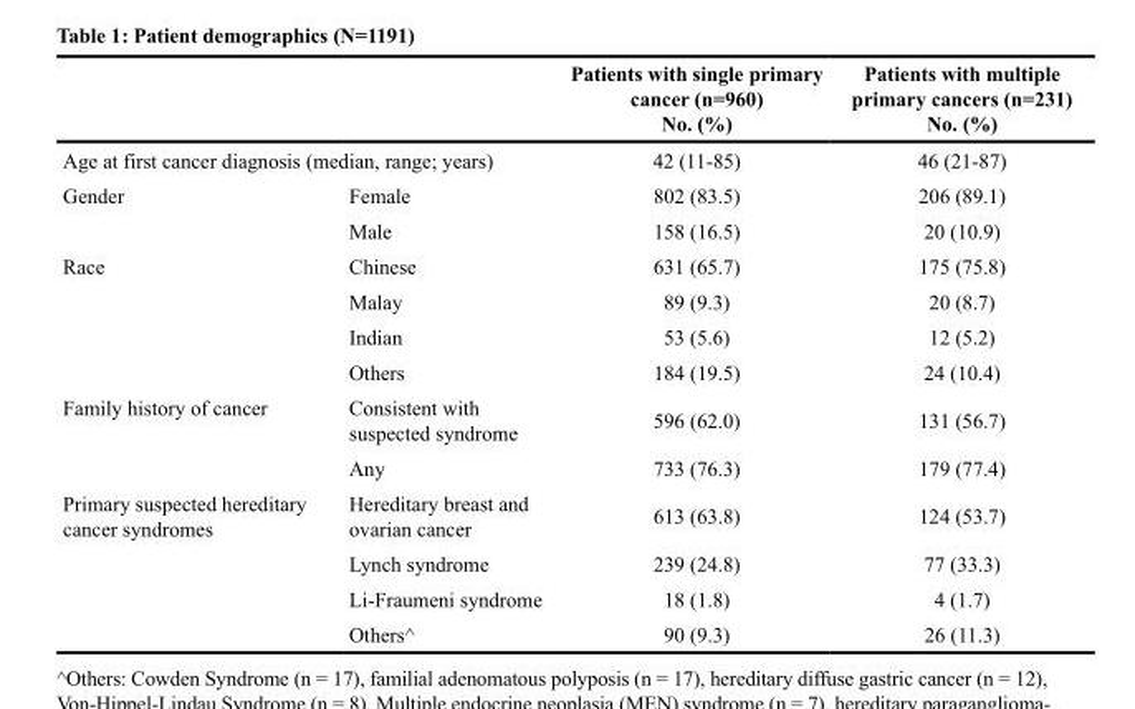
<table><thead><tr><td></td><td></td><td>Patients with single primary cancer (n=960) No. (%)</td><td>Patients with multiple primary cancers (n=231) No. (%)</td></tr></thead><tbody><tr><td colspan="2">Age at first cancer diagnosis (median, range; years)</td><td>42 (11-85)</td><td>46 (21-87)</td></tr><tr><td rowspan="2">Gender</td><td>Female</td><td>802 (83.5)</td><td>206 (89.1)</td></tr><tr><td>Male</td><td>158 (16.5)</td><td>20 (10.9)</td></tr><tr><td rowspan="4">Race</td><td>Chinese</td><td>631 (65.7)</td><td>175 (75.8)</td></tr><tr><td>Malay</td><td>89 (9.3)</td><td>20 (8.7)</td></tr><tr><td>Indian</td><td>53 (5.6)</td><td>12 (5.2)</td></tr><tr><td>Others</td><td>184 (19.5)</td><td>24 (10.4)</td></tr><tr><td rowspan="2">Family history of cancer</td><td>Consistent with suspected syndrome</td><td>596 (62.0)</td><td>131 (56.7)</td></tr><tr><td>Any</td><td>733 (76.3)</td><td>179 (77.4)</td></tr><tr><td rowspan="4">Primary suspected hereditary cancer syndromes</td><td>Hereditary breast and ovarian cancer</td><td>613 (63.8)</td><td>124 (53.7)</td></tr><tr><td>Lynch syndrome</td><td>239 (24.8)</td><td>77 (33.3)</td></tr><tr><td>Li-Fraumeni syndrome</td><td>18 (1.8)</td><td>4 (1.7)</td></tr><tr><td>Others^</td><td>90 (9.3)</td><td>26 (11.3)</td></tr></tbody></table>